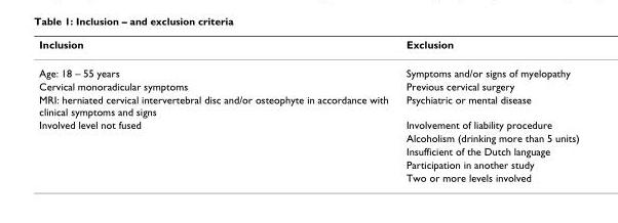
<table><thead><tr><td>Inclusion</td><td>Exclusion</td></tr></thead><tbody><tr><td>Age: 18 – 55 years</td><td>Symptoms and/or signs of myelopathy</td></tr><tr><td>Cervical monoradicular symptoms</td><td>Previous cervical surgery</td></tr><tr><td>MRI: herniated cervical intervertebral disc and/or osteophyte in accordance with clinical symptoms and signs</td><td>Psychiatric or mental disease</td></tr><tr><td rowspan="5">Involved level not fused</td><td>Involvement of liability procedure</td></tr><tr><td>Alcoholism (drinking more than 5 units)</td></tr><tr><td>Insufficient of the Dutch language</td></tr><tr><td>Participation in another study</td></tr><tr><td>Two or more levels involved</td></tr></tbody></table>